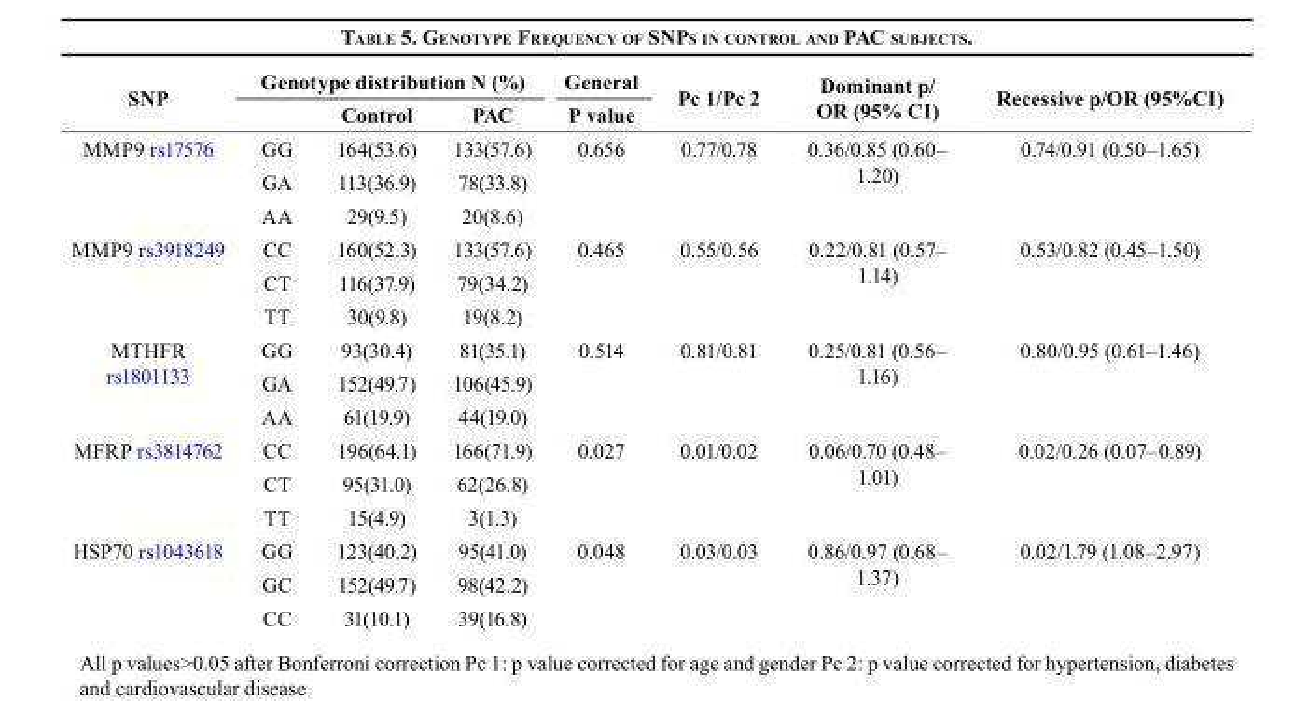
<table><thead><tr><td rowspan="2">SNP</td><td colspan="3">Genotype distribution N (%)</td><td rowspan="2">General P value</td><td rowspan="2">Pc 1/Pc 2</td><td rowspan="2">Dominant p/ OR (95% CI)</td><td rowspan="2">Recessive p/OR (95%CI)</td></tr><tr><td></td><td>Control</td><td>PAC</td></tr></thead><tbody><tr><td rowspan="3">MMP9 rs17576</td><td>GG</td><td>164(53.6)</td><td>133(57.6)</td><td rowspan="3">0.656</td><td rowspan="3">0.77/0.78</td><td rowspan="3">0.36/0.85 (0.60– 1.20)</td><td rowspan="3">0.74/0.91 (0.50–1.65)</td></tr><tr><td>GA</td><td>113(36.9)</td><td>78(33.8)</td></tr><tr><td>AA</td><td>29(9.5)</td><td>20(8.6)</td></tr><tr><td rowspan="3">MMP9 rs3918249</td><td>CC</td><td>160(52.3)</td><td>133(57.6)</td><td rowspan="3">0.465</td><td rowspan="3">0.55/0.56</td><td rowspan="3">0.22/0.81 (0.57– 1.14)</td><td rowspan="3">0.53/0.82 (0.45–1.50)</td></tr><tr><td>CT</td><td>116(37.9)</td><td>79(34.2)</td></tr><tr><td>TT</td><td>30(9.8)</td><td>19(8.2)</td></tr><tr><td rowspan="3">MTHFR rs1801133</td><td>GG</td><td>93(30.4)</td><td>81(35.1)</td><td rowspan="3">0.514</td><td rowspan="3">0.81/0.81</td><td rowspan="3">0.25/0.81 (0.56– 1.16)</td><td rowspan="3">0.80/0.95 (0.61–1.46)</td></tr><tr><td>GA</td><td>152(49.7)</td><td>106(45.9)</td></tr><tr><td>AA</td><td>61(19.9)</td><td>44(19.0)</td></tr><tr><td rowspan="3">MFRP rs3814762</td><td>CC</td><td>196(64.1)</td><td>166(71.9)</td><td rowspan="3">0.027</td><td rowspan="3">0.01/0.02</td><td rowspan="3">0.06/0.70 (0.48– 1.01)</td><td rowspan="3">0.02/0.26 (0.07–0.89)</td></tr><tr><td>CT</td><td>95(31.0)</td><td>62(26.8)</td></tr><tr><td>TT</td><td>15(4.9)</td><td>3(1.3)</td></tr><tr><td rowspan="3">HSP70 rs1043618</td><td>GG</td><td>123(40.2)</td><td>95(41.0)</td><td rowspan="3">0.048</td><td rowspan="3">0.03/0.03</td><td rowspan="3">0.86/0.97 (0.68– 1.37)</td><td rowspan="3">0.02/1.79 (1.08–2.97)</td></tr><tr><td>GC</td><td>152(49.7)</td><td>98(42.2)</td></tr><tr><td>CC</td><td>31(10.1)</td><td>39(16.8)</td></tr></tbody></table>